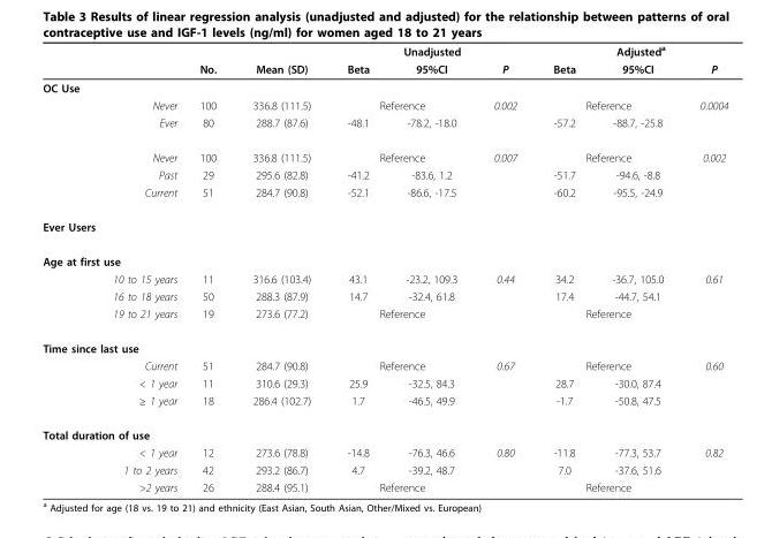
<table><thead><tr><td rowspan="2"></td><td rowspan="2">No.</td><td rowspan="2">Mean (SD)</td><td colspan="3">Unadjusted</td><td colspan="3">Adjusted<sup>a</sup></td></tr><tr><td>Beta</td><td>95%CI</td><td>P</td><td>Beta</td><td>95%CI</td><td>P</td></tr></thead><tbody><tr><td colspan="9">OC Use</td></tr><tr><td>Never</td><td>100</td><td>336.8 (111.5)</td><td colspan="2">Reference</td><td>0.002</td><td colspan="2">Reference</td><td>0.0004</td></tr><tr><td>Ever</td><td>80</td><td>288.7 (87.6)</td><td>-48.1</td><td>-78.2, -18.0</td><td></td><td>-57.2</td><td>-88.7, -25.8</td><td></td></tr><tr><td>Never</td><td>100</td><td>336.8 (111.5)</td><td colspan="2">Reference</td><td>0.007</td><td colspan="2">Reference</td><td>0.002</td></tr><tr><td>Past</td><td>29</td><td>295.6 (82.8)</td><td>-41.2</td><td>-83.6, 1.2</td><td></td><td>-51.7</td><td>-94.6, -8.8</td><td></td></tr><tr><td>Current</td><td>51</td><td>284.7 (90.8)</td><td>-52.1</td><td>-86.6, -17.5</td><td></td><td>-60.2</td><td>-95.5, -24.9</td><td></td></tr><tr><td colspan="9">Ever Users</td></tr><tr><td colspan="9">Age at first use</td></tr><tr><td>10 to 15 years</td><td>11</td><td>316.6 (103.4)</td><td>43.1</td><td>-23.2, 109.3</td><td>0.44</td><td>34.2</td><td>-36.7, 105.0</td><td>0.61</td></tr><tr><td>16 to 18 years</td><td>50</td><td>288.3 (87.9)</td><td>14.7</td><td>-32.4, 61.8</td><td></td><td>17.4</td><td>-44.7, 54.1</td><td></td></tr><tr><td>19 to 21 years</td><td>19</td><td>273.6 (77.2)</td><td colspan="2">Reference</td><td></td><td colspan="2">Reference</td><td></td></tr><tr><td colspan="9">Time since last use</td></tr><tr><td>Current</td><td>51</td><td>284.7 (90.8)</td><td colspan="2">Reference</td><td>0.67</td><td colspan="2">Reference</td><td>0.60</td></tr><tr><td>&lt; 1 year</td><td>11</td><td>310.6 (29.3)</td><td>25.9</td><td>-32.5, 84.3</td><td></td><td>28.7</td><td>-30.0, 87.4</td><td></td></tr><tr><td>≥ 1 year</td><td>18</td><td>286.4 (102.7)</td><td>1.7</td><td>-46.5, 49.9</td><td></td><td>-1.7</td><td>-50.8, 47.5</td><td></td></tr><tr><td colspan="9">Total duration of use</td></tr><tr><td>&lt; 1 year</td><td>12</td><td>273.6 (78.8)</td><td>-14.8</td><td>-76.3, 46.6</td><td>0.80</td><td>-11.8</td><td>-77.3, 53.7</td><td>0.82</td></tr><tr><td>1 to 2 years</td><td>42</td><td>293.2 (86.7)</td><td>4.7</td><td>-39.2, 48.7</td><td></td><td>7.0</td><td>-37.6, 51.6</td><td></td></tr><tr><td>&gt;2 years</td><td>26</td><td>288.4 (95.1)</td><td colspan="2">Reference</td><td></td><td colspan="2">Reference</td><td></td></tr></tbody></table>